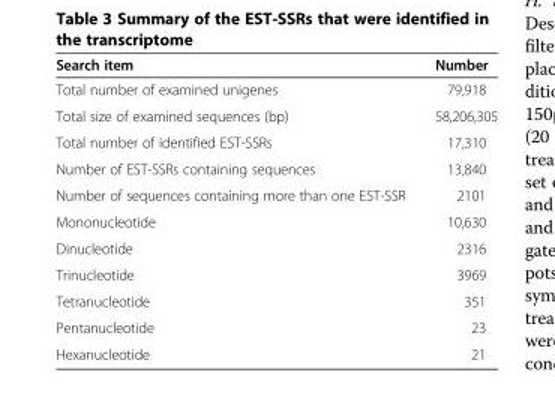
<table><thead><tr><td>Search item</td><td>Number</td></tr></thead><tbody><tr><td>Total number of examined unigenes</td><td>79,918</td></tr><tr><td>Total size of examined sequences (bp)</td><td>58,206,305</td></tr><tr><td>Total number of identified EST-SSRs</td><td>17,310</td></tr><tr><td>Number of EST-SSRs containing sequences</td><td>13,840</td></tr><tr><td>Number of sequences containing more than one EST-SSR</td><td>2101</td></tr><tr><td>Mononucleotide</td><td>10,630</td></tr><tr><td>Dinucleotide</td><td>2316</td></tr><tr><td>Trinucleotide</td><td>3969</td></tr><tr><td>Tetranucleotide</td><td>351</td></tr><tr><td>Pentanucleotide</td><td>23</td></tr><tr><td>Hexanucleotide</td><td>21</td></tr></tbody></table>